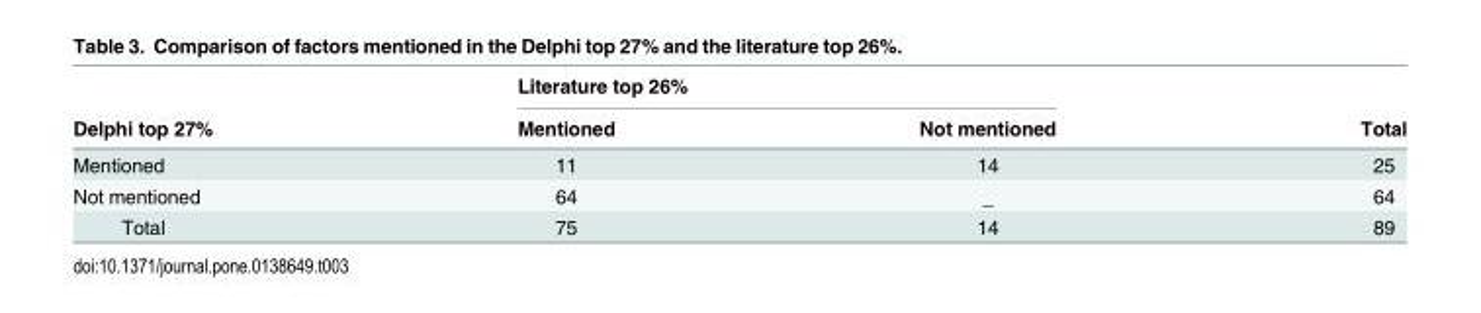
<table><thead><tr><td rowspan="2">Delphi top 27%</td><td colspan="2">Literature top 26%</td><td rowspan="2">Total</td></tr><tr><td>Mentioned</td><td>Not mentioned</td></tr></thead><tbody><tr><td>Mentioned</td><td>11</td><td>14</td><td>25</td></tr><tr><td>Not mentioned</td><td>64</td><td>_</td><td>64</td></tr><tr><td>Total</td><td>75</td><td>14</td><td>89</td></tr></tbody></table>